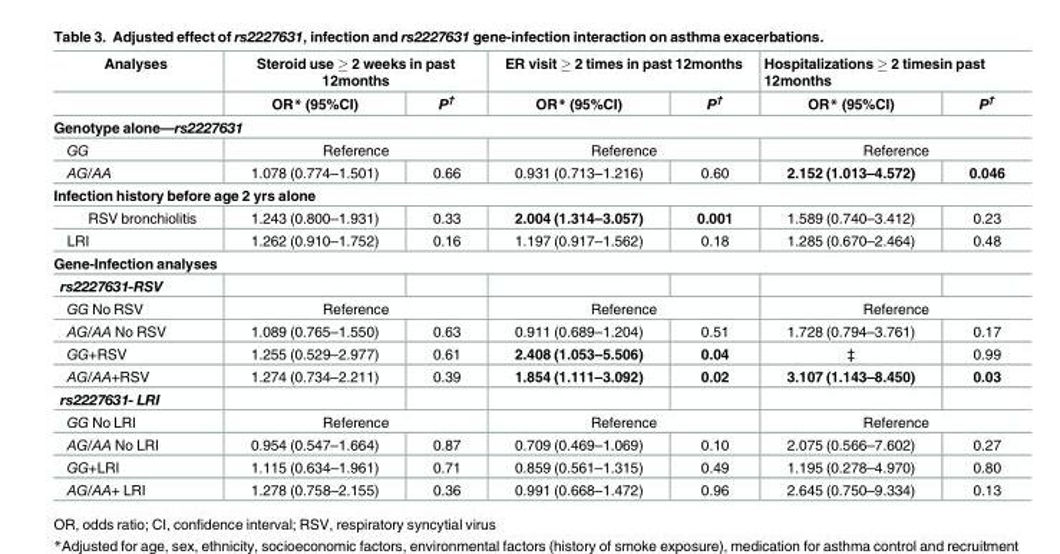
<table><thead><tr><td rowspan="2">Analyses</td><td colspan="2">Steroid use ≥ 2 weeks in past 12months</td><td colspan="2">ER visit ≥ 2 times in past 12months</td><td colspan="2">Hospitalizations ≥ 2 timesin past 12months</td></tr><tr><td>OR* (95%CI)</td><td>P<sup>†</sup></td><td>OR* (95%CI)</td><td>P<sup>†</sup></td><td>OR* (95%CI)</td><td>P<sup>†</sup></td></tr></thead><tbody><tr><td colspan="7">Genotype alone—rs2227631</td></tr><tr><td>GG</td><td colspan="2">Reference</td><td colspan="2">Reference</td><td colspan="2">Reference</td></tr><tr><td>AG/AA</td><td>1.078 (0.774–1.501)</td><td>0.66</td><td>0.931 (0.713–1.216)</td><td>0.60</td><td>2.152 (1.013–4.572)</td><td>0.046</td></tr><tr><td colspan="7">Infection history before age 2 yrs alone</td></tr><tr><td>RSV bronchiolitis</td><td>1.243 (0.800–1.931)</td><td>0.33</td><td>2.004 (1.314–3.057)</td><td>0.001</td><td>1.589 (0.740–3.412)</td><td>0.23</td></tr><tr><td>LRI</td><td>1.262 (0.910–1.752)</td><td>0.16</td><td>1.197 (0.917–1.562)</td><td>0.18</td><td>1.285 (0.670–2.464)</td><td>0.48</td></tr><tr><td colspan="7">Gene-Infection analyses</td></tr><tr><td colspan="7">rs2227631-RSV</td></tr><tr><td>GG No RSV</td><td colspan="2">Reference</td><td colspan="2">Reference</td><td colspan="2">Reference</td></tr><tr><td>AG/AA No RSV</td><td>1.089 (0.765–1.550)</td><td>0.63</td><td>0.911 (0.689–1.204)</td><td>0.51</td><td>1.728 (0.794–3.761)</td><td>0.17</td></tr><tr><td>GG+RSV</td><td>1.255 (0.529–2.977)</td><td>0.61</td><td>2.408 (1.053–5.506)</td><td>0.04</td><td>‡</td><td>0.99</td></tr><tr><td>AG/AA+RSV</td><td>1.274 (0.734–2.211)</td><td>0.39</td><td>1.854 (1.111–3.092)</td><td>0.02</td><td>3.107 (1.143–8.450)</td><td>0.03</td></tr><tr><td colspan="7">rs2227631- LRI</td></tr><tr><td>GG No LRI</td><td colspan="2">Reference</td><td colspan="2">Reference</td><td colspan="2">Reference</td></tr><tr><td>AG/AA No LRI</td><td>0.954 (0.547–1.664)</td><td>0.87</td><td>0.709 (0.469–1.069)</td><td>0.10</td><td>2.075 (0.566–7.602)</td><td>0.27</td></tr><tr><td>GG+LRI</td><td>1.115 (0.634–1.961)</td><td>0.71</td><td>0.859 (0.561–1.315)</td><td>0.49</td><td>1.195 (0.278–4.970)</td><td>0.80</td></tr><tr><td>AG/AA+ LRI</td><td>1.278 (0.758–2.155)</td><td>0.36</td><td>0.991 (0.668–1.472)</td><td>0.96</td><td>2.645 (0.750–9.334)</td><td>0.13</td></tr></tbody></table>